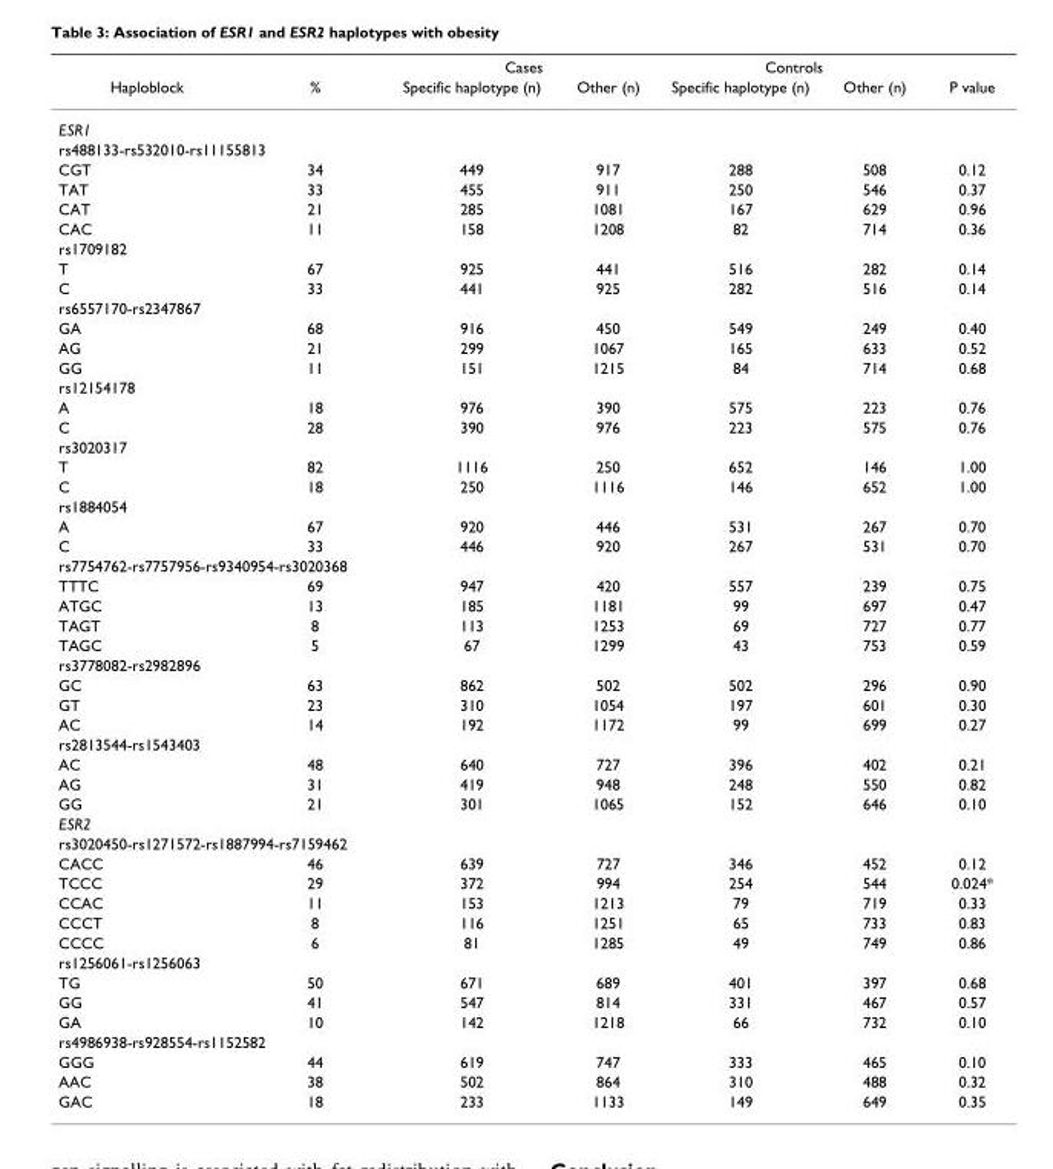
<table><thead><tr><td rowspan="2">Haploblock</td><td rowspan="2">%</td><td colspan="2">Cases</td><td colspan="2">Controls</td><td rowspan="2">P value</td></tr><tr><td>Specific haplotype (n)</td><td>Other (n)</td><td>Specific haplotype (n)</td><td>Other (n)</td></tr></thead><tbody><tr><td colspan="7">ESR1</td></tr><tr><td colspan="7">rs488133-rs532010-rs11155813</td></tr><tr><td>CGT</td><td>34</td><td>449</td><td>917</td><td>288</td><td>508</td><td>0.12</td></tr><tr><td>TAT</td><td>33</td><td>455</td><td>911</td><td>250</td><td>546</td><td>0.37</td></tr><tr><td>CAT</td><td>21</td><td>285</td><td>1081</td><td>167</td><td>629</td><td>0.96</td></tr><tr><td>CAC</td><td>11</td><td>158</td><td>1208</td><td>82</td><td>714</td><td>0.36</td></tr><tr><td colspan="7">rs1709182</td></tr><tr><td>T</td><td>67</td><td>925</td><td>441</td><td>516</td><td>282</td><td>0.14</td></tr><tr><td>C</td><td>33</td><td>441</td><td>925</td><td>282</td><td>516</td><td>0.14</td></tr><tr><td colspan="7">rs6557170-rs2347867</td></tr><tr><td>GA</td><td>68</td><td>916</td><td>450</td><td>549</td><td>249</td><td>0.40</td></tr><tr><td>AG</td><td>21</td><td>299</td><td>1067</td><td>165</td><td>633</td><td>0.52</td></tr><tr><td>GG</td><td>11</td><td>151</td><td>1215</td><td>84</td><td>714</td><td>0.68</td></tr><tr><td colspan="7">rs12154178</td></tr><tr><td>A</td><td>18</td><td>976</td><td>390</td><td>575</td><td>223</td><td>0.76</td></tr><tr><td>C</td><td>28</td><td>390</td><td>976</td><td>223</td><td>575</td><td>0.76</td></tr><tr><td colspan="7">rs3020317</td></tr><tr><td>T</td><td>82</td><td>1116</td><td>250</td><td>652</td><td>146</td><td>1.00</td></tr><tr><td>C</td><td>18</td><td>250</td><td>1116</td><td>146</td><td>652</td><td>1.00</td></tr><tr><td colspan="7">rs1884054</td></tr><tr><td>A</td><td>67</td><td>920</td><td>446</td><td>531</td><td>267</td><td>0.70</td></tr><tr><td>C</td><td>33</td><td>446</td><td>920</td><td>267</td><td>531</td><td>0.70</td></tr><tr><td colspan="7">rs7754762-rs7757956-rs9340954-rs3020368</td></tr><tr><td>TTTC</td><td>69</td><td>947</td><td>420</td><td>557</td><td>239</td><td>0.75</td></tr><tr><td>ATGC</td><td>13</td><td>185</td><td>1181</td><td>99</td><td>697</td><td>0.47</td></tr><tr><td>TAGT</td><td>8</td><td>113</td><td>1253</td><td>69</td><td>727</td><td>0.77</td></tr><tr><td>TAGC</td><td>5</td><td>67</td><td>1299</td><td>43</td><td>753</td><td>0.59</td></tr><tr><td colspan="7">rs3778082-rs2982896</td></tr><tr><td>GC</td><td>63</td><td>862</td><td>502</td><td>502</td><td>296</td><td>0.90</td></tr><tr><td>GT</td><td>23</td><td>310</td><td>1054</td><td>197</td><td>601</td><td>0.30</td></tr><tr><td>AC</td><td>14</td><td>192</td><td>1172</td><td>99</td><td>699</td><td>0.27</td></tr><tr><td colspan="7">rs2813544-rs1543403</td></tr><tr><td>AC</td><td>48</td><td>640</td><td>727</td><td>396</td><td>402</td><td>0.21</td></tr><tr><td>AG</td><td>31</td><td>419</td><td>948</td><td>248</td><td>550</td><td>0.82</td></tr><tr><td>GG</td><td>21</td><td>301</td><td>1065</td><td>152</td><td>646</td><td>0.10</td></tr><tr><td colspan="7">ESR2</td></tr><tr><td colspan="7">rs3020450-rs1271572-rs1887994-rs7159462</td></tr><tr><td>CACC</td><td>46</td><td>639</td><td>727</td><td>346</td><td>452</td><td>0.12</td></tr><tr><td>TCCC</td><td>29</td><td>372</td><td>994</td><td>254</td><td>544</td><td>0.024*</td></tr><tr><td>CCAC</td><td>11</td><td>153</td><td>1213</td><td>79</td><td>719</td><td>0.33</td></tr><tr><td>CCCT</td><td>8</td><td>116</td><td>1251</td><td>65</td><td>733</td><td>0.83</td></tr><tr><td>CCCC</td><td>6</td><td>81</td><td>1285</td><td>49</td><td>749</td><td>0.86</td></tr><tr><td colspan="7">rs1256061-rs1256063</td></tr><tr><td>TG</td><td>50</td><td>671</td><td>689</td><td>401</td><td>397</td><td>0.68</td></tr><tr><td>GG</td><td>41</td><td>547</td><td>814</td><td>331</td><td>467</td><td>0.57</td></tr><tr><td>GA</td><td>10</td><td>142</td><td>1218</td><td>66</td><td>732</td><td>0.10</td></tr><tr><td colspan="7">rs4986938-rs928554-rs1152582</td></tr><tr><td>GGG</td><td>44</td><td>619</td><td>747</td><td>333</td><td>465</td><td>0.10</td></tr><tr><td>AAC</td><td>38</td><td>502</td><td>864</td><td>310</td><td>488</td><td>0.32</td></tr><tr><td>GAC</td><td>18</td><td>233</td><td>1133</td><td>149</td><td>649</td><td>0.35</td></tr></tbody></table>